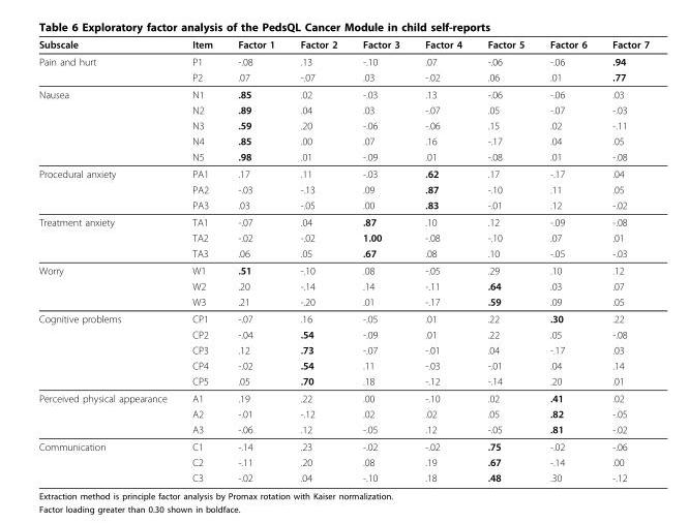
<table><thead><tr><td>Subscale</td><td>Item</td><td>Factor 1</td><td>Factor 2</td><td>Factor 3</td><td>Factor 4</td><td>Factor 5</td><td>Factor 6</td><td>Factor 7</td></tr></thead><tbody><tr><td rowspan="2">Pain and hurt</td><td>P1</td><td>-.08</td><td>.13</td><td>-.10</td><td>.07</td><td>-.06</td><td>-.06</td><td>.94</td></tr><tr><td>P2</td><td>.07</td><td>-.07</td><td>.03</td><td>-.02</td><td>.06</td><td>.01</td><td>.77</td></tr><tr><td rowspan="5">Nausea</td><td>N1</td><td>.85</td><td>.02</td><td>-.03</td><td>.13</td><td>-.06</td><td>-.06</td><td>.03</td></tr><tr><td>N2</td><td>.89</td><td>.04</td><td>.03</td><td>-.07</td><td>.05</td><td>-.07</td><td>-.03</td></tr><tr><td>N3</td><td>.59</td><td>.20</td><td>-.06</td><td>-.06</td><td>.15</td><td>.02</td><td>-.11</td></tr><tr><td>N4</td><td>.85</td><td>.00</td><td>.07</td><td>.16</td><td>-.17</td><td>.04</td><td>.05</td></tr><tr><td>N5</td><td>.98</td><td>.01</td><td>-.09</td><td>.01</td><td>-.08</td><td>.01</td><td>-.08</td></tr><tr><td rowspan="3">Procedural anxiety</td><td>PA1</td><td>.17</td><td>.11</td><td>-.03</td><td>.62</td><td>.17</td><td>-.17</td><td>.04</td></tr><tr><td>PA2</td><td>-.03</td><td>-.13</td><td>.09</td><td>.87</td><td>-.10</td><td>.11</td><td>.05</td></tr><tr><td>PA3</td><td>.03</td><td>-.05</td><td>.00</td><td>.83</td><td>-.01</td><td>.12</td><td>-.02</td></tr><tr><td rowspan="3">Treatment anxiety</td><td>TA1</td><td>-.07</td><td>.04</td><td>.87</td><td>.10</td><td>.12</td><td>-.09</td><td>-.08</td></tr><tr><td>TA2</td><td>-.02</td><td>-.02</td><td>1.00</td><td>-.08</td><td>-.10</td><td>.07</td><td>.01</td></tr><tr><td>TA3</td><td>.06</td><td>.05</td><td>.67</td><td>.08</td><td>.10</td><td>-.05</td><td>-.03</td></tr><tr><td rowspan="3">Worry</td><td>W1</td><td>.51</td><td>-.10</td><td>.08</td><td>-.05</td><td>.29</td><td>.10</td><td>.12</td></tr><tr><td>W2</td><td>.20</td><td>-.14</td><td>.14</td><td>-.11</td><td>.64</td><td>.03</td><td>.07</td></tr><tr><td>W3</td><td>.21</td><td>-.20</td><td>.01</td><td>-.17</td><td>.59</td><td>.09</td><td>.05</td></tr><tr><td rowspan="5">Cognitive problems</td><td>CP1</td><td>-.07</td><td>.16</td><td>-.05</td><td>.01</td><td>.22</td><td>.30</td><td>.22</td></tr><tr><td>CP2</td><td>-.04</td><td>.54</td><td>-.09</td><td>.01</td><td>.22</td><td>.05</td><td>-.08</td></tr><tr><td>CP3</td><td>.12</td><td>.73</td><td>-.07</td><td>-.01</td><td>.04</td><td>-.17</td><td>.03</td></tr><tr><td>CP4</td><td>-.02</td><td>.54</td><td>.11</td><td>-.03</td><td>-.01</td><td>.04</td><td>.14</td></tr><tr><td>CP5</td><td>.05</td><td>.70</td><td>.18</td><td>-.12</td><td>-.14</td><td>.20</td><td>.01</td></tr><tr><td rowspan="3">Perceived physical appearance</td><td>A1</td><td>.19</td><td>.22</td><td>.00</td><td>-.10</td><td>.02</td><td>.41</td><td>.02</td></tr><tr><td>A2</td><td>-.01</td><td>-.12</td><td>.02</td><td>.02</td><td>.05</td><td>.82</td><td>-.05</td></tr><tr><td>A3</td><td>-.06</td><td>.12</td><td>-.05</td><td>.12</td><td>-.05</td><td>.81</td><td>-.02</td></tr><tr><td rowspan="3">Communication</td><td>C1</td><td>-.14</td><td>.23</td><td>-.02</td><td>-.02</td><td>.75</td><td>-.02</td><td>-.06</td></tr><tr><td>C2</td><td>-.11</td><td>.20</td><td>.08</td><td>.19</td><td>.67</td><td>-.14</td><td>.00</td></tr><tr><td>C3</td><td>-.02</td><td>.04</td><td>-.10</td><td>.18</td><td>.48</td><td>.30</td><td>-.12</td></tr></tbody></table>